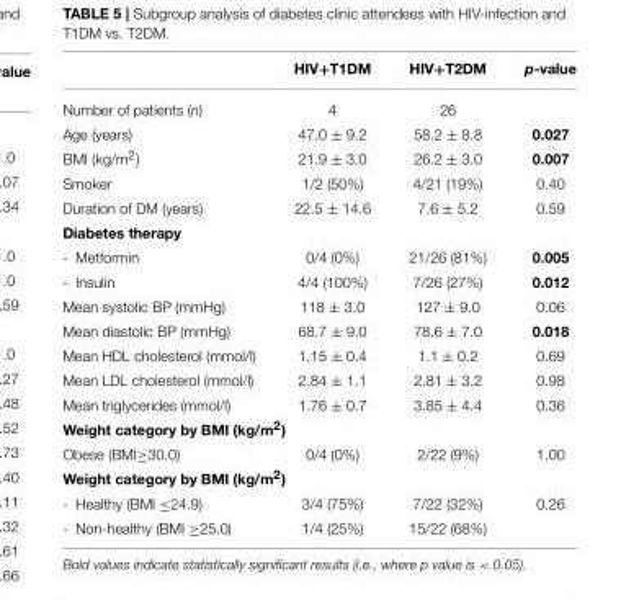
<table><thead><tr><td></td><td>HIV+T1DM</td><td>HIV+T2DM</td><td>p-value</td></tr></thead><tbody><tr><td>Number of patients (n)</td><td>4</td><td>26</td><td></td></tr><tr><td>Age (years)</td><td>47.0 ± 9.2</td><td>58.2 ± 8.8</td><td>0.027</td></tr><tr><td>BMI (kg/m<sup>2</sup>)</td><td>21.9 ± 3.0</td><td>26.2 ± 3.0</td><td>0.007</td></tr><tr><td>Smoker</td><td>1/2 (50%)</td><td>4/21 (19%)</td><td>0.40</td></tr><tr><td>Duration of DM (years)</td><td>22.5 ± 14.6</td><td>7.6 ± 5.2</td><td>0.59</td></tr><tr><td colspan="4">Diabetes therapy</td></tr><tr><td>- Metformin</td><td>0/4 (0%)</td><td>21/26 (81%)</td><td>0.005</td></tr><tr><td>- Insulin</td><td>4/4 (100%)</td><td>7/26 (27%)</td><td>0.012</td></tr><tr><td>Mean systolic BP (mmHg)</td><td>118 ± 3.0</td><td>127 ± 9.0</td><td>0.06</td></tr><tr><td>Mean diastolic BP (mmHg)</td><td>68.7 ± 9.0</td><td>78.6 ± 7.0</td><td>0.018</td></tr><tr><td>Mean HDL cholesterol (mmol/l)</td><td>1.15 ± 0.4</td><td>1.1 ± 0.2</td><td>0.69</td></tr><tr><td>Mean LDL cholesterol (mmol/l)</td><td>2.84 ± 1.1</td><td>2.81 ± 3.2</td><td>0.98</td></tr><tr><td>Mean triglycerides (mmol/l)</td><td>1.76 ± 0.7</td><td>3.85 ± 4.4</td><td>0.36</td></tr><tr><td colspan="4">Weight category by BMI (kg/m<sup>2</sup>)</td></tr><tr><td>Obese (BMI≥30.0)</td><td>0/4 (0%)</td><td>2/22 (9%)</td><td>1.00</td></tr><tr><td colspan="4">Weight category by BMI (kg/m<sup>2</sup>)</td></tr><tr><td>- Healthy (BMI ≤24.9)</td><td>3/4 (75%)</td><td>7/22 (32%)</td><td>0.26</td></tr><tr><td>- Non-healthy (BMI ≥25.0)</td><td>1/4 (25%)</td><td>15/22 (68%)</td><td></td></tr></tbody></table>